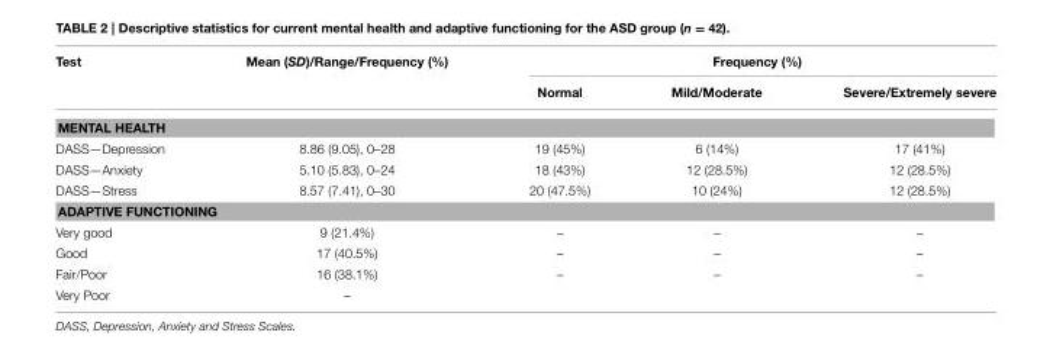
<table><thead><tr><td rowspan="2">Test</td><td rowspan="2">Mean (SD)/Range/Frequency (%)</td><td colspan="3">Frequency (%)</td></tr><tr><td>Normal</td><td>Mild/Moderate</td><td>Severe/Extremely severe</td></tr></thead><tbody><tr><td colspan="5">MENTAL HEALTH</td></tr><tr><td>DASS—Depression</td><td>8.86 (9.05), 0–28</td><td>19 (45%)</td><td>6 (14%)</td><td>17 (41%)</td></tr><tr><td>DASS—Anxiety</td><td>5.10 (5.83), 0–24</td><td>18 (43%)</td><td>12 (28.5%)</td><td>12 (28.5%)</td></tr><tr><td>DASS—Stress</td><td>8.57 (7.41), 0–30</td><td>20 (47.5%)</td><td>10 (24%)</td><td>12 (28.5%)</td></tr><tr><td colspan="5">ADAPTIVE FUNCTIONING</td></tr><tr><td>Very good</td><td>9 (21.4%)</td><td>–</td><td>–</td><td>–</td></tr><tr><td>Good</td><td>17 (40.5%)</td><td>–</td><td>–</td><td>–</td></tr><tr><td>Fair/Poor</td><td>16 (38.1%)</td><td>–</td><td>–</td><td>–</td></tr><tr><td>Very Poor</td><td>–</td><td></td><td></td><td></td></tr></tbody></table>